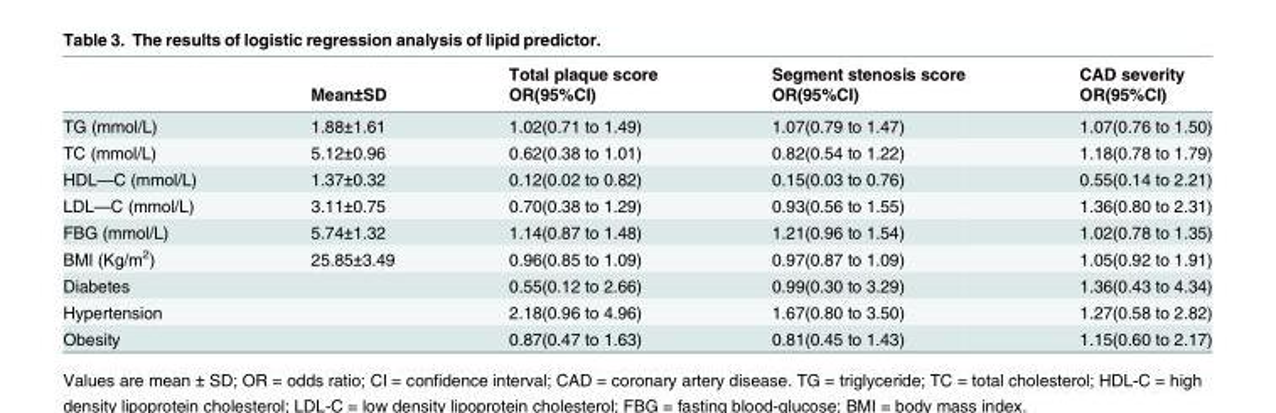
<table><thead><tr><td rowspan="2"></td><td rowspan="2">Mean±SD</td><td rowspan="2">Total plaque score OR(95%CI)</td><td rowspan="2">Segment stenosis score OR(95%CI)</td><td rowspan="2">CAD severity OR(95%CI)</td></tr><tr></tr></thead><tbody><tr><td>TG (mmol/L)</td><td>1.88±1.61</td><td>1.02(0.71 to 1.49)</td><td>1.07(0.79 to 1.47)</td><td>1.07(0.76 to 1.50)</td></tr><tr><td>TC (mmol/L)</td><td>5.12±0.96</td><td>0.62(0.38 to 1.01)</td><td>0.82(0.54 to 1.22)</td><td>1.18(0.78 to 1.79)</td></tr><tr><td>HDL—C (mmol/L)</td><td>1.37±0.32</td><td>0.12(0.02 to 0.82)</td><td>0.15(0.03 to 0.76)</td><td>0.55(0.14 to 2.21)</td></tr><tr><td>LDL—C (mmol/L)</td><td>3.11±0.75</td><td>0.70(0.38 to 1.29)</td><td>0.93(0.56 to 1.55)</td><td>1.36(0.80 to 2.31)</td></tr><tr><td>FBG (mmol/L)</td><td>5.74±1.32</td><td>1.14(0.87 to 1.48)</td><td>1.21(0.96 to 1.54)</td><td>1.02(0.78 to 1.35)</td></tr><tr><td>BMI (Kg/m<sup>2</sup>)</td><td>25.85±3.49</td><td>0.96(0.85 to 1.09)</td><td>0.97(0.87 to 1.09)</td><td>1.05(0.92 to 1.91)</td></tr><tr><td>Diabetes</td><td></td><td>0.55(0.12 to 2.66)</td><td>0.99(0.30 to 3.29)</td><td>1.36(0.43 to 4.34)</td></tr><tr><td>Hypertension</td><td></td><td>2.18(0.96 to 4.96)</td><td>1.67(0.80 to 3.50)</td><td>1.27(0.58 to 2.82)</td></tr><tr><td>Obesity</td><td></td><td>0.87(0.47 to 1.63)</td><td>0.81(0.45 to 1.43)</td><td>1.15(0.60 to 2.17)</td></tr></tbody></table>